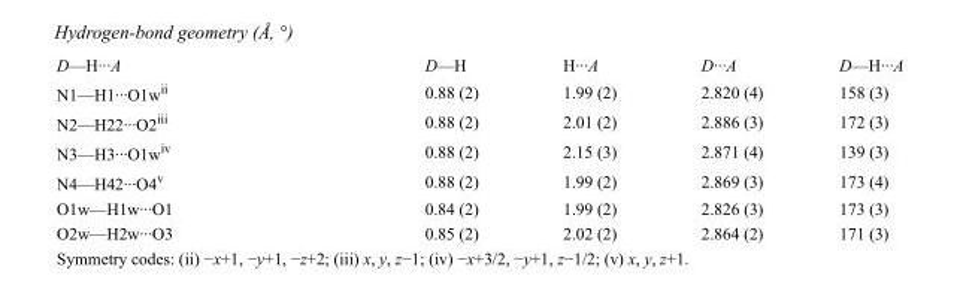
<table><tbody><tr><td>D—H···A</td><td>D—H</td><td>H···A</td><td>D···A</td><td>D—H···A</td></tr><tr><td>N1—H1···O1w<sup>ii</sup></td><td>0.88 (2)</td><td>1.99 (2)</td><td>2.820 (4)</td><td>158 (3)</td></tr><tr><td>N2—H22···O2<sup>iii</sup></td><td>0.88 (2)</td><td>2.01 (2)</td><td>2.886 (3)</td><td>172 (3)</td></tr><tr><td>N3—H3···O1w<sup>iv</sup></td><td>0.88 (2)</td><td>2.15 (3)</td><td>2.871 (4)</td><td>139 (3)</td></tr><tr><td>N4—H42···O4<sup>v</sup></td><td>0.88 (2)</td><td>1.99 (2)</td><td>2.869 (3)</td><td>173 (4)</td></tr><tr><td>O1w—H1w···O1</td><td>0.84 (2)</td><td>1.99 (2)</td><td>2.826 (3)</td><td>173 (3)</td></tr><tr><td>O2w—H2w···O3</td><td>0.85 (2)</td><td>2.02 (2)</td><td>2.864 (2)</td><td>171 (3)</td></tr></tbody></table>